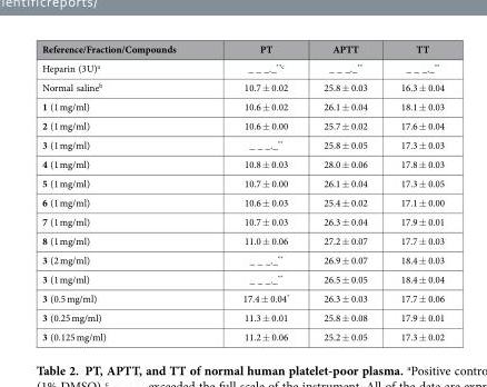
<table><thead><tr><td>Reference/Fraction/Compounds</td><td>PT</td><td>APTT</td><td>TT</td></tr></thead><tbody><tr><td>Heparin (3U)<sup>a</sup></td><td>_ _ _._<sup>**c</sup></td><td>_ _ _._**</td><td>_ _ _._**</td></tr><tr><td>Normal saline<sup>b</sup></td><td>10.7 ± 0.02</td><td>25.8 ± 0.03</td><td>16.3 ± 0.04</td></tr><tr><td>1 (1 mg/ml)</td><td>10.6 ± 0.02</td><td>26.1 ± 0.04</td><td>18.1 ± 0.03</td></tr><tr><td>2 (1 mg/ml)</td><td>10.6 ± 0.00</td><td>25.7 ± 0.02</td><td>17.6 ± 0.04</td></tr><tr><td>3 (1 mg/ml)</td><td>_ _ _._**</td><td>25.8 ± 0.05</td><td>17.3 ± 0.03</td></tr><tr><td>4 (1 mg/ml)</td><td>10.8 ± 0.03</td><td>28.0 ± 0.06</td><td>17.8 ± 0.03</td></tr><tr><td>5 (1 mg/ml)</td><td>10.7 ± 0.00</td><td>26.1 ± 0.04</td><td>17.3 ± 0.05</td></tr><tr><td>6 (1 mg/ml)</td><td>10.6 ± 0.03</td><td>25.4 ± 0.02</td><td>17.1 ± 0.00</td></tr><tr><td>7 (1 mg/ml)</td><td>10.7 ± 0.03</td><td>26.3 ± 0.04</td><td>17.9 ± 0.01</td></tr><tr><td>8 (1 mg/ml)</td><td>11.0 ± 0.06</td><td>27.2 ± 0.07</td><td>17.7 ± 0.03</td></tr><tr><td>3 (2 mg/ml)</td><td>_ _ _._**</td><td>26.9 ± 0.07</td><td>18.4 ± 0.03</td></tr><tr><td>3 (1 mg/ml)</td><td>_ _ _._**</td><td>26.5 ± 0.05</td><td>18.4 ± 0.04</td></tr><tr><td>3 (0.5 mg/ml)</td><td>17.4 ± 0.04*</td><td>26.3 ± 0.03</td><td>17.7 ± 0.06</td></tr><tr><td>3 (0.25 mg/ml)</td><td>11.3 ± 0.01</td><td>25.8 ± 0.08</td><td>17.9 ± 0.01</td></tr><tr><td>3 (0.125 mg/ml)</td><td>11.2 ± 0.06</td><td>25.2 ± 0.05</td><td>17.3 ± 0.02</td></tr></tbody></table>